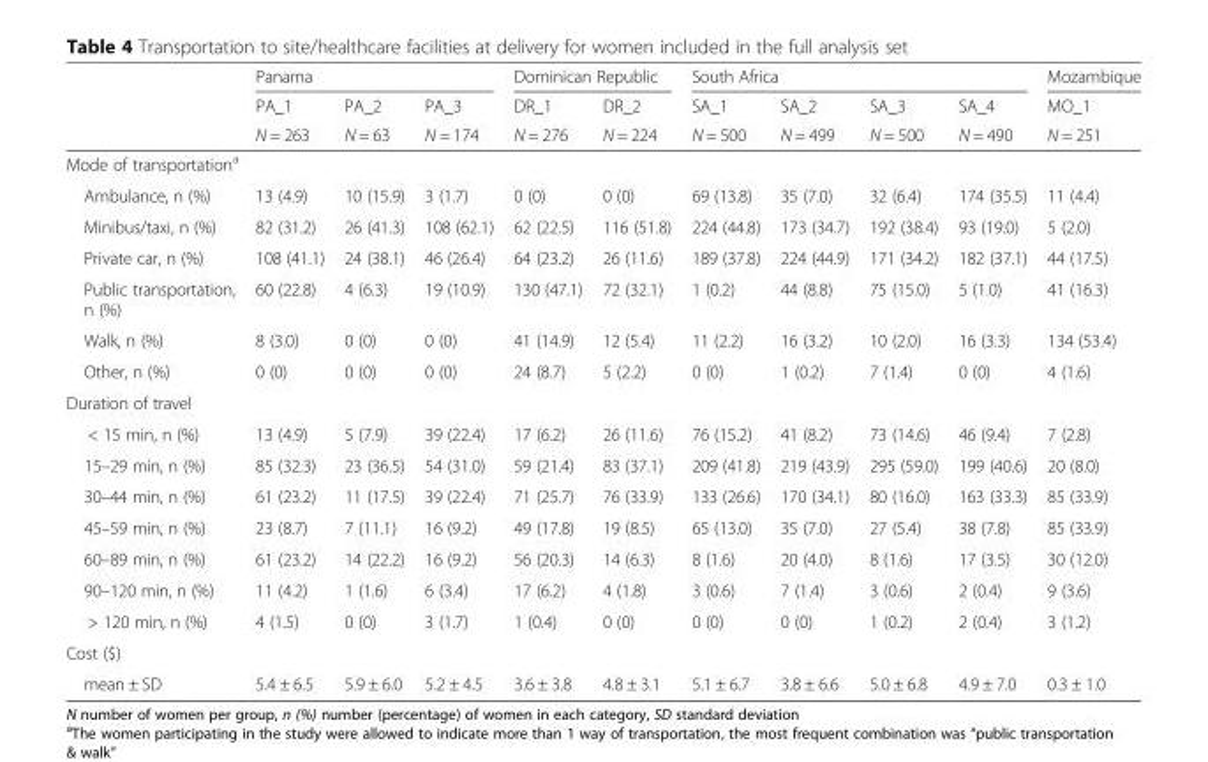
<table><thead><tr><td rowspan="3"></td><td colspan="3">Panama</td><td colspan="2">Dominican Republic</td><td colspan="4">South Africa</td><td rowspan="3">Mozambique MO_1 N = 251</td></tr><tr><td rowspan="2">PA_1 N = 263</td><td rowspan="2">PA_2 N = 63</td><td rowspan="2">PA_3 N = 174</td><td rowspan="2">DR_1 N = 276</td><td rowspan="2">DR_2 N = 224</td><td rowspan="2">SA_1 N = 500</td><td rowspan="2">SA_2 N = 499</td><td rowspan="2">SA_3 N = 500</td><td rowspan="2">SA_4 N = 490</td></tr><tr></tr></thead><tbody><tr><td colspan="11">Mode of transportation<sup>a</sup></td></tr><tr><td>Ambulance, n (%)</td><td>13 (4.9)</td><td>10 (15.9)</td><td>3 (1.7)</td><td>0 (0)</td><td>0 (0)</td><td>69 (13.8)</td><td>35 (7.0)</td><td>32 (6.4)</td><td>174 (35.5)</td><td>11 (4.4)</td></tr><tr><td>Minibus/taxi, n (%)</td><td>82 (31.2)</td><td>26 (41.3)</td><td>108 (62.1)</td><td>62 (22.5)</td><td>116 (51.8)</td><td>224 (44.8)</td><td>173 (34.7)</td><td>192 (38.4)</td><td>93 (19.0)</td><td>5 (2.0)</td></tr><tr><td>Private car, n (%)</td><td>108 (41.1)</td><td>24 (38.1)</td><td>46 (26.4)</td><td>64 (23.2)</td><td>26 (11.6)</td><td>189 (37.8)</td><td>224 (44.9)</td><td>171 (34.2)</td><td>182 (37.1)</td><td>44 (17.5)</td></tr><tr><td>Public transportation, n (%)</td><td>60 (22.8)</td><td>4 (6.3)</td><td>19 (10.9)</td><td>130 (47.1)</td><td>72 (32.1)</td><td>1 (0.2)</td><td>44 (8.8)</td><td>75 (15.0)</td><td>5 (1.0)</td><td>41 (16.3)</td></tr><tr><td>Walk, n (%)</td><td>8 (3.0)</td><td>0 (0)</td><td>0 (0)</td><td>41 (14.9)</td><td>12 (5.4)</td><td>11 (2.2)</td><td>16 (3.2)</td><td>10 (2.0)</td><td>16 (3.3)</td><td>134 (53.4)</td></tr><tr><td>Other, n (%)</td><td>0 (0)</td><td>0 (0)</td><td>0 (0)</td><td>24 (8.7)</td><td>5 (2.2)</td><td>0 (0)</td><td>1 (0.2)</td><td>7 (1.4)</td><td>0 (0)</td><td>4 (1.6)</td></tr><tr><td colspan="11">Duration of travel</td></tr><tr><td>&lt; 15 min, n (%)</td><td>13 (4.9)</td><td>5 (7.9)</td><td>39 (22.4)</td><td>17 (6.2)</td><td>26 (11.6)</td><td>76 (15.2)</td><td>41 (8.2)</td><td>73 (14.6)</td><td>46 (9.4)</td><td>7 (2.8)</td></tr><tr><td>15–29 min, n (%)</td><td>85 (32.3)</td><td>23 (36.5)</td><td>54 (31.0)</td><td>59 (21.4)</td><td>83 (37.1)</td><td>209 (41.8)</td><td>219 (43.9)</td><td>295 (59.0)</td><td>199 (40.6)</td><td>20 (8.0)</td></tr><tr><td>30–44 min, n (%)</td><td>61 (23.2)</td><td>11 (17.5)</td><td>39 (22.4)</td><td>71 (25.7)</td><td>76 (33.9)</td><td>133 (26.6)</td><td>170 (34.1)</td><td>80 (16.0)</td><td>163 (33.3)</td><td>85 (33.9)</td></tr><tr><td>45–59 min, n (%)</td><td>23 (8.7)</td><td>7 (11.1)</td><td>16 (9.2)</td><td>49 (17.8)</td><td>19 (8.5)</td><td>65 (13.0)</td><td>35 (7.0)</td><td>27 (5.4)</td><td>38 (7.8)</td><td>85 (33.9)</td></tr><tr><td>60–89 min, n (%)</td><td>61 (23.2)</td><td>14 (22.2)</td><td>16 (9.2)</td><td>56 (20.3)</td><td>14 (6.3)</td><td>8 (1.6)</td><td>20 (4.0)</td><td>8 (1.6)</td><td>17 (3.5)</td><td>30 (12.0)</td></tr><tr><td>90–120 min, n (%)</td><td>11 (4.2)</td><td>1 (1.6)</td><td>6 (3.4)</td><td>17 (6.2)</td><td>4 (1.8)</td><td>3 (0.6)</td><td>7 (1.4)</td><td>3 (0.6)</td><td>2 (0.4)</td><td>9 (3.6)</td></tr><tr><td>&gt; 120 min, n (%)</td><td>4 (1.5)</td><td>0 (0)</td><td>3 (1.7)</td><td>1 (0.4)</td><td>0 (0)</td><td>0 (0)</td><td>0 (0)</td><td>1 (0.2)</td><td>2 (0.4)</td><td>3 (1.2)</td></tr><tr><td colspan="11">Cost ($)</td></tr><tr><td>mean ± SD</td><td>5.4 ± 6.5</td><td>5.9 ± 6.0</td><td>5.2 ± 4.5</td><td>3.6 ± 3.8</td><td>4.8 ± 3.1</td><td>5.1 ± 6.7</td><td>3.8 ± 6.6</td><td>5.0 ± 6.8</td><td>4.9 ± 7.0</td><td>0.3 ± 1.0</td></tr></tbody></table>